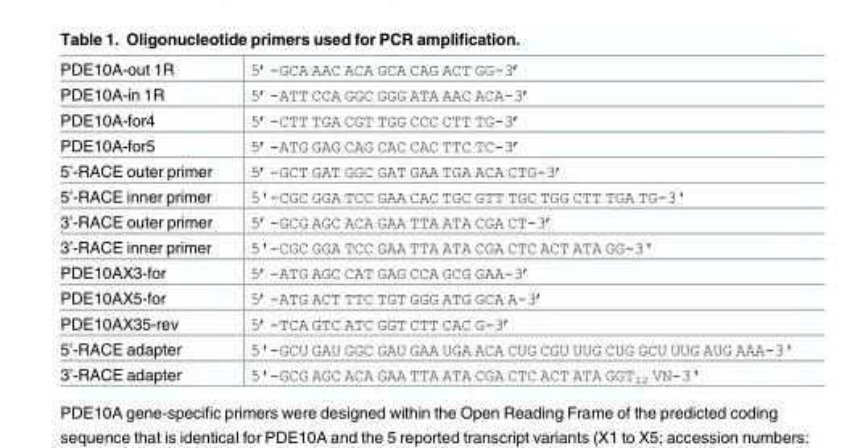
<table><tbody><tr><td>PDE10A-out 1R</td><td>5’-GCA AAC ACA GCA CAG ACT GG-3’</td></tr><tr><td>PDE10A-in 1R</td><td>5’-ATT CCA GGC GGG ATA AAC ACA-3’</td></tr><tr><td>PDE10A-for4</td><td>5’-CTT TGA CGT TGG CCC CTT TG-3’</td></tr><tr><td>PDE10A-for5</td><td>5’-ATG GAG CAG CAC CAC TTC TC-3’</td></tr><tr><td>5’-RACE outer primer</td><td>5’-GCT GAT GGC GAT GAA TGA ACA CTG-3’</td></tr><tr><td>5’-RACE inner primer</td><td>5&#x27;-CGC GGA TCC GAA CAC TGC GTT TGC TGG CTT TGA TG-3&#x27;</td></tr><tr><td>3’-RACE outer primer</td><td>5’-GCG AGC ACA GAA TTA ATA CGA CT-3’</td></tr><tr><td>3’-RACE inner primer</td><td>5&#x27;-CGC GGA TCC GAA TTA ATA CGA CTC ACT ATA GG-3&#x27;</td></tr><tr><td>PDE10AX3-for</td><td>5’-ATG AGC CAT GAG CCA GCG GAA-3’</td></tr><tr><td>PDE10AX5-for</td><td>5’-ATG ACT TTC TGT GGG ATG GCA A-3’</td></tr><tr><td>PDE10AX35-rev</td><td>5’-TCA GTC ATC GGT CTT CAC G-3’</td></tr><tr><td>5’-RACE adapter</td><td>5&#x27;-GCU GAU GGC GAU GAA UGA ACA CUG CGU UUG CUG GCU UUG AUG AAA-3&#x27;</td></tr><tr><td>3’-RACE adapter</td><td>5&#x27;-GCG AGC ACA GAA TTA ATA CGA CTC ACT ATA GGT<sub>12</sub> VN-3&#x27;</td></tr></tbody></table>